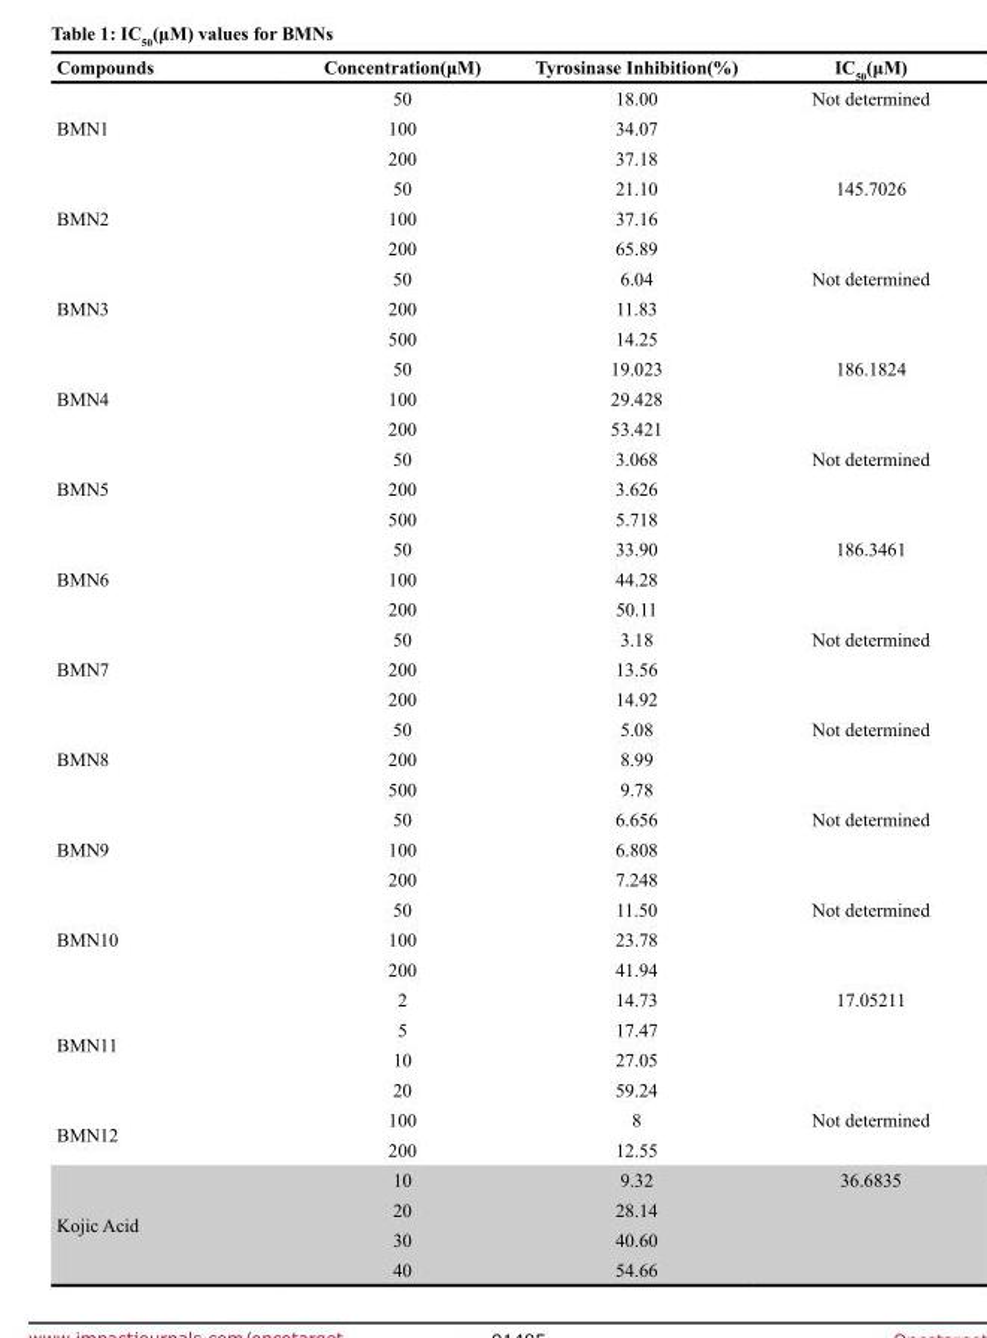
<table><thead><tr><td>Compounds</td><td>Concentration(μM)</td><td>Tyrosinase Inhibition(%)</td><td>IC<sub>50</sub>(μM)</td></tr></thead><tbody><tr><td rowspan="3">BMN1</td><td>50</td><td>18.00</td><td>Not determined</td></tr><tr><td>100</td><td>34.07</td><td></td></tr><tr><td>200</td><td>37.18</td><td></td></tr><tr><td rowspan="3">BMN2</td><td>50</td><td>21.10</td><td>145.7026</td></tr><tr><td>100</td><td>37.16</td><td></td></tr><tr><td>200</td><td>65.89</td><td></td></tr><tr><td rowspan="3">BMN3</td><td>50</td><td>6.04</td><td>Not determined</td></tr><tr><td>200</td><td>11.83</td><td></td></tr><tr><td>500</td><td>14.25</td><td></td></tr><tr><td rowspan="3">BMN4</td><td>50</td><td>19.023</td><td>186.1824</td></tr><tr><td>100</td><td>29.428</td><td></td></tr><tr><td>200</td><td>53.421</td><td></td></tr><tr><td rowspan="3">BMN5</td><td>50</td><td>3.068</td><td>Not determined</td></tr><tr><td>200</td><td>3.626</td><td></td></tr><tr><td>500</td><td>5.718</td><td></td></tr><tr><td rowspan="3">BMN6</td><td>50</td><td>33.90</td><td>186.3461</td></tr><tr><td>100</td><td>44.28</td><td></td></tr><tr><td>200</td><td>50.11</td><td></td></tr><tr><td rowspan="3">BMN7</td><td>50</td><td>3.18</td><td>Not determined</td></tr><tr><td>200</td><td>13.56</td><td></td></tr><tr><td>200</td><td>14.92</td><td></td></tr><tr><td rowspan="3">BMN8</td><td>50</td><td>5.08</td><td>Not determined</td></tr><tr><td>200</td><td>8.99</td><td></td></tr><tr><td>500</td><td>9.78</td><td></td></tr><tr><td rowspan="3">BMN9</td><td>50</td><td>6.656</td><td>Not determined</td></tr><tr><td>100</td><td>6.808</td><td></td></tr><tr><td>200</td><td>7.248</td><td></td></tr><tr><td rowspan="3">BMN10</td><td>50</td><td>11.50</td><td>Not determined</td></tr><tr><td>100</td><td>23.78</td><td></td></tr><tr><td>200</td><td>41.94</td><td></td></tr><tr><td rowspan="4">BMN11</td><td>2</td><td>14.73</td><td>17.05211</td></tr><tr><td>5</td><td>17.47</td><td></td></tr><tr><td>10</td><td>27.05</td><td></td></tr><tr><td>20</td><td>59.24</td><td></td></tr><tr><td rowspan="2">BMN12</td><td>100</td><td>8</td><td>Not determined</td></tr><tr><td>200</td><td>12.55</td><td></td></tr><tr><td rowspan="4">Kojic Acid</td><td>10</td><td>9.32</td><td>36.6835</td></tr><tr><td>20</td><td>28.14</td><td></td></tr><tr><td>30</td><td>40.60</td><td></td></tr><tr><td>40</td><td>54.66</td><td></td></tr></tbody></table>